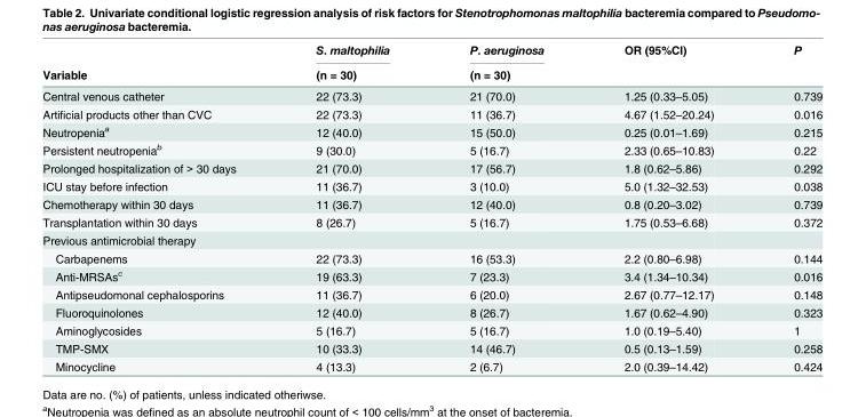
<table><thead><tr><td rowspan="2">Variable</td><td rowspan="2">S. maltophilia (n = 30)</td><td rowspan="2">P. aeruginosa (n = 30)</td><td rowspan="2">OR (95%CI)</td><td rowspan="2">P</td></tr><tr></tr></thead><tbody><tr><td>Central venous catheter</td><td>22 (73.3)</td><td>21 (70.0)</td><td>1.25 (0.33–5.05)</td><td>0.739</td></tr><tr><td>Artificial products other than CVC</td><td>22 (73.3)</td><td>11 (36.7)</td><td>4.67 (1.52–20.24)</td><td>0.016</td></tr><tr><td>Neutropenia<sup>a</sup></td><td>12 (40.0)</td><td>15 (50.0)</td><td>0.25 (0.01–1.69)</td><td>0.215</td></tr><tr><td>Persistent neutropenia<sup>b</sup></td><td>9 (30.0)</td><td>5 (16.7)</td><td>2.33 (0.65–10.83)</td><td>0.22</td></tr><tr><td>Prolonged hospitalization of &gt; 30 days</td><td>21 (70.0)</td><td>17 (56.7)</td><td>1.8 (0.62–5.86)</td><td>0.292</td></tr><tr><td>ICU stay before infection</td><td>11 (36.7)</td><td>3 (10.0)</td><td>5.0 (1.32–32.53)</td><td>0.038</td></tr><tr><td>Chemotherapy within 30 days</td><td>11 (36.7)</td><td>12 (40.0)</td><td>0.8 (0.20–3.02)</td><td>0.739</td></tr><tr><td>Transplantation within 30 days</td><td>8 (26.7)</td><td>5 (16.7)</td><td>1.75 (0.53–6.68)</td><td>0.372</td></tr><tr><td colspan="5">Previous antimicrobial therapy</td></tr><tr><td>Carbapenems</td><td>22 (73.3)</td><td>16 (53.3)</td><td>2.2 (0.80–6.98)</td><td>0.144</td></tr><tr><td>Anti-MRSAs<sup>c</sup></td><td>19 (63.3)</td><td>7 (23.3)</td><td>3.4 (1.34–10.34)</td><td>0.016</td></tr><tr><td>Antipseudomonal cephalosporins</td><td>11 (36.7)</td><td>6 (20.0)</td><td>2.67 (0.77–12.17)</td><td>0.148</td></tr><tr><td>Fluoroquinolones</td><td>12 (40.0)</td><td>8 (26.7)</td><td>1.67 (0.62–4.90)</td><td>0.323</td></tr><tr><td>Aminoglycosides</td><td>5 (16.7)</td><td>5 (16.7)</td><td>1.0 (0.19–5.40)</td><td>1</td></tr><tr><td>TMP-SMX</td><td>10 (33.3)</td><td>14 (46.7)</td><td>0.5 (0.13–1.59)</td><td>0.258</td></tr><tr><td>Minocycline</td><td>4 (13.3)</td><td>2 (6.7)</td><td>2.0 (0.39–14.42)</td><td>0.424</td></tr></tbody></table>